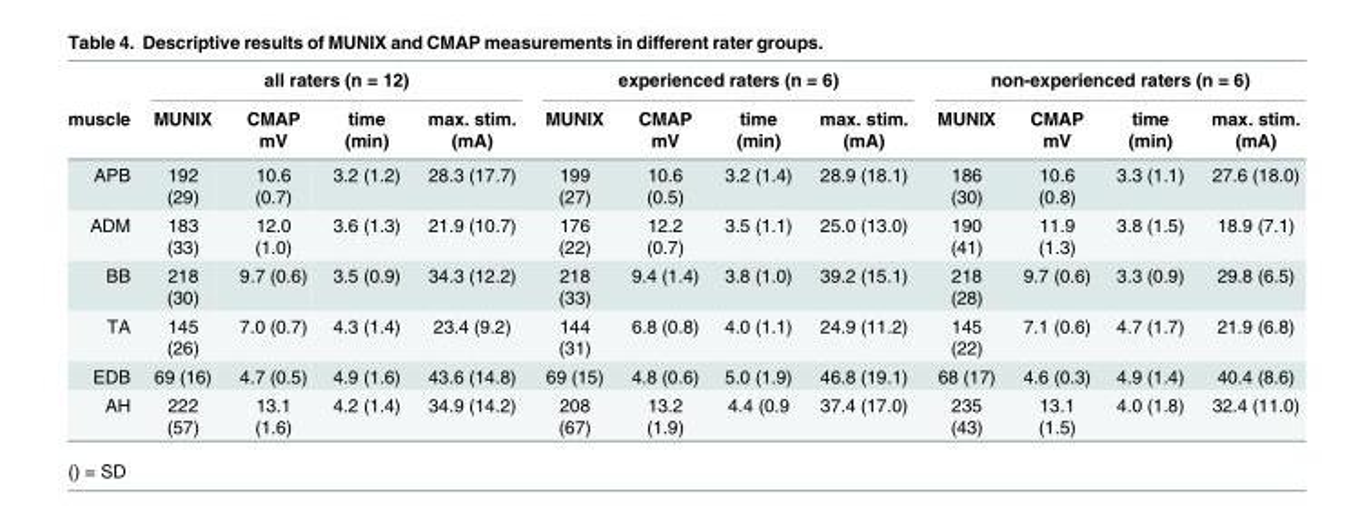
<table><thead><tr><td rowspan="2">muscle</td><td colspan="4">all raters (n = 12)</td><td colspan="4">experienced raters (n = 6)</td><td colspan="4">non-experienced raters (n = 6)</td></tr><tr><td>MUNIX</td><td>CMAP mV</td><td>time (min)</td><td>max. stim. (mA)</td><td>MUNIX</td><td>CMAP mV</td><td>time (min)</td><td>max. stim. (mA)</td><td>MUNIX</td><td>CMAP mV</td><td>time (min)</td><td>max. stim. (mA)</td></tr></thead><tbody><tr><td>APB</td><td>192 (29)</td><td>10.6 (0.7)</td><td>3.2 (1.2)</td><td>28.3 (17.7)</td><td>199 (27)</td><td>10.6 (0.5)</td><td>3.2 (1.4)</td><td>28.9 (18.1)</td><td>186 (30)</td><td>10.6 (0.8)</td><td>3.3 (1.1)</td><td>27.6 (18.0)</td></tr><tr><td>ADM</td><td>183 (33)</td><td>12.0 (1.0)</td><td>3.6 (1.3)</td><td>21.9 (10.7)</td><td>176 (22)</td><td>12.2 (0.7)</td><td>3.5 (1.1)</td><td>25.0 (13.0)</td><td>190 (41)</td><td>11.9 (1.3)</td><td>3.8 (1.5)</td><td>18.9 (7.1)</td></tr><tr><td>BB</td><td>218 (30)</td><td>9.7 (0.6)</td><td>3.5 (0.9)</td><td>34.3 (12.2)</td><td>218 (33)</td><td>9.4 (1.4)</td><td>3.8 (1.0)</td><td>39.2 (15.1)</td><td>218 (28)</td><td>9.7 (0.6)</td><td>3.3 (0.9)</td><td>29.8 (6.5)</td></tr><tr><td>TA</td><td>145 (26)</td><td>7.0 (0.7)</td><td>4.3 (1.4)</td><td>23.4 (9.2)</td><td>144 (31)</td><td>6.8 (0.8)</td><td>4.0 (1.1)</td><td>24.9 (11.2)</td><td>145 (22)</td><td>7.1 (0.6)</td><td>4.7 (1.7)</td><td>21.9 (6.8)</td></tr><tr><td>EDB</td><td>69 (16)</td><td>4.7 (0.5)</td><td>4.9 (1.6)</td><td>43.6 (14.8)</td><td>69 (15)</td><td>4.8 (0.6)</td><td>5.0 (1.9)</td><td>46.8 (19.1)</td><td>68 (17)</td><td>4.6 (0.3)</td><td>4.9 (1.4)</td><td>40.4 (8.6)</td></tr><tr><td>AH</td><td>222 (57)</td><td>13.1 (1.6)</td><td>4.2 (1.4)</td><td>34.9 (14.2)</td><td>208 (67)</td><td>13.2 (1.9)</td><td>4.4 (0.9</td><td>37.4 (17.0)</td><td>235 (43)</td><td>13.1 (1.5)</td><td>4.0 (1.8)</td><td>32.4 (11.0)</td></tr></tbody></table>